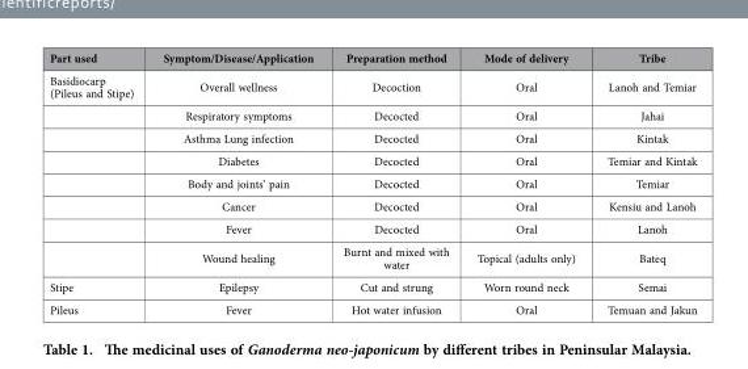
<table><thead><tr><td>Part used</td><td>Symptom/Disease/Application</td><td>Preparation method</td><td>Mode of delivery</td><td>Tribe</td></tr></thead><tbody><tr><td rowspan="8">Basidiocarp (Pileus and Stipe)</td><td>Overall wellness</td><td>Decoction</td><td>Oral</td><td>Lanoh and Temiar</td></tr><tr><td>Respiratory symptoms</td><td>Decocted</td><td>Oral</td><td>Jahai</td></tr><tr><td>Asthma Lung infection</td><td>Decocted</td><td>Oral</td><td>Kintak</td></tr><tr><td>Diabetes</td><td>Decocted</td><td>Oral</td><td>Temiar and Kintak</td></tr><tr><td>Body and joints’ pain</td><td>Decocted</td><td>Oral</td><td>Temiar</td></tr><tr><td>Cancer</td><td>Decocted</td><td>Oral</td><td>Kensiu and Lanoh</td></tr><tr><td>Fever</td><td>Decocted</td><td>Oral</td><td>Lanoh</td></tr><tr><td>Wound healing</td><td>Burnt and mixed with water</td><td>Topical (adults only)</td><td>Bateq</td></tr><tr><td>Stipe</td><td>Epilepsy</td><td>Cut and strung</td><td>Worn round neck</td><td>Semai</td></tr><tr><td>Pileus</td><td>Fever</td><td>Hot water infusion</td><td>Oral</td><td>Temuan and Jakun</td></tr></tbody></table>